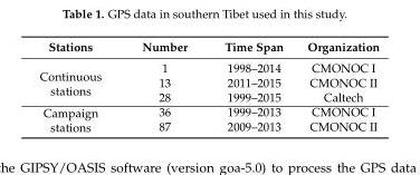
<table><thead><tr><td>Stations</td><td>Number</td><td>Time Span</td><td>Organization</td></tr></thead><tbody><tr><td rowspan="3">Continuous stations</td><td>1</td><td>1998–2014</td><td>CMONOC I</td></tr><tr><td>13</td><td>2011–2015</td><td>CMONOC II</td></tr><tr><td>28</td><td>1999–2015</td><td>Caltech</td></tr><tr><td rowspan="2">Campaign stations</td><td>36</td><td>1999–2013</td><td>CMONOC I</td></tr><tr><td>87</td><td>2009–2013</td><td>CMONOC II</td></tr></tbody></table>